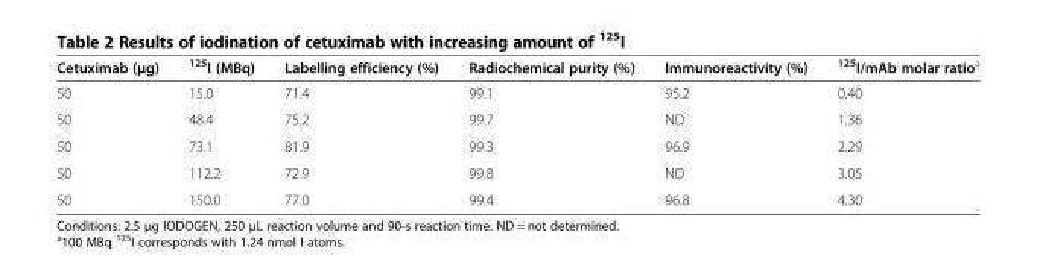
<table><thead><tr><td>Cetuximab (μg)</td><td><sup>125</sup>I (MBq)</td><td>Labelling efficiency (%)</td><td>Radiochemical purity (%)</td><td>Immunoreactivity (%)</td><td><sup>125</sup>I/mAb molar ratio<sup>a</sup></td></tr></thead><tbody><tr><td>50</td><td>15.0</td><td>71.4</td><td>99.1</td><td>95.2</td><td>0.40</td></tr><tr><td>50</td><td>48.4</td><td>75.2</td><td>99.7</td><td>ND</td><td>1.36</td></tr><tr><td>50</td><td>73.1</td><td>81.9</td><td>99.3</td><td>96.9</td><td>2.29</td></tr><tr><td>50</td><td>112.2</td><td>72.9</td><td>99.8</td><td>ND</td><td>3.05</td></tr><tr><td>50</td><td>150.0</td><td>77.0</td><td>99.4</td><td>96.8</td><td>4.30</td></tr></tbody></table>